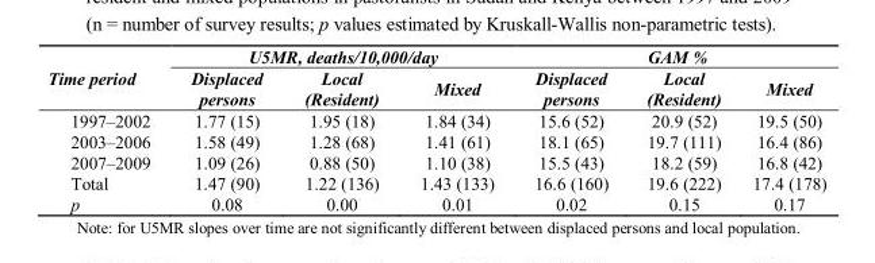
<table><thead><tr><td rowspan="2">Time period</td><td colspan="3">U5MR, deaths/10,000/day</td><td colspan="3">GAM %</td></tr><tr><td>Displaced persons</td><td>Local (Resident)</td><td>Mixed</td><td>Displaced persons</td><td>Local (Resident)</td><td>Mixed</td></tr></thead><tbody><tr><td>1997–2002</td><td>1.77 (15)</td><td>1.95 (18)</td><td>1.84 (34)</td><td>15.6 (52)</td><td>20.9 (52)</td><td>19.5 (50)</td></tr><tr><td>2003–2006</td><td>1.58 (49)</td><td>1.28 (68)</td><td>1.41 (61)</td><td>18.1 (65)</td><td>19.7 (111)</td><td>16.4 (86)</td></tr><tr><td>2007–2009</td><td>1.09 (26)</td><td>0.88 (50)</td><td>1.10 (38)</td><td>15.5 (43)</td><td>18.2 (59)</td><td>16.8 (42)</td></tr><tr><td>Total</td><td>1.47 (90)</td><td>1.22 (136)</td><td>1.43 (133)</td><td>16.6 (160)</td><td>19.6 (222)</td><td>17.4 (178)</td></tr><tr><td>p</td><td>0.08</td><td>0.00</td><td>0.01</td><td>0.02</td><td>0.15</td><td>0.17</td></tr></tbody></table>